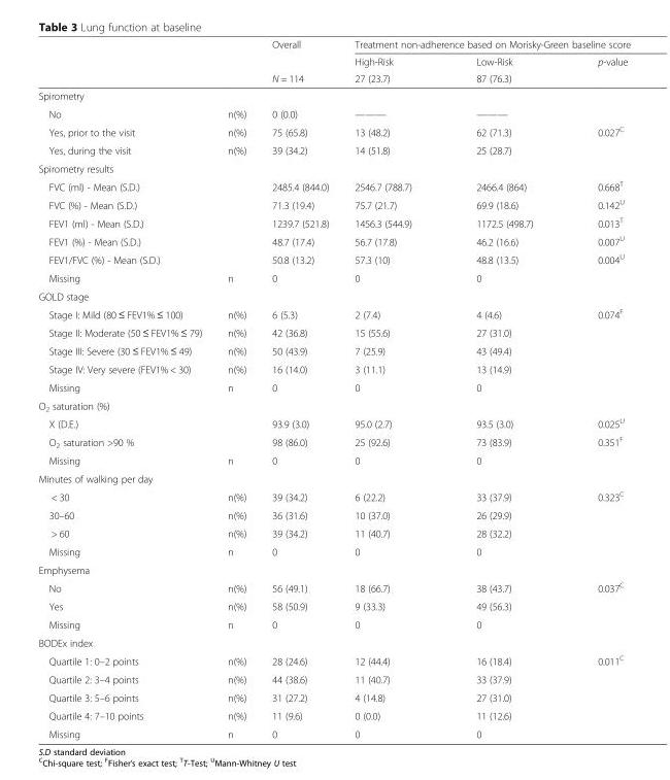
<table><thead><tr><td rowspan="3"></td><td rowspan="3"></td><td rowspan="3">Overall N = 114</td><td colspan="3">Treatment non-adherence based on Morisky-Green baseline score</td></tr><tr><td rowspan="2">High-Risk 27 (23.7)</td><td rowspan="2">Low-Risk 87 (76.3)</td><td rowspan="2">p-value</td></tr><tr></tr></thead><tbody><tr><td colspan="6">Spirometry</td></tr><tr><td>No</td><td>n(%)</td><td>0 (0.0)</td><td>———</td><td>———</td><td></td></tr><tr><td>Yes, prior to the visit</td><td>n(%)</td><td>75 (65.8)</td><td>13 (48.2)</td><td>62 (71.3)</td><td>0.027<sup>C</sup></td></tr><tr><td>Yes, during the visit</td><td>n(%)</td><td>39 (34.2)</td><td>14 (51.8)</td><td>25 (28.7)</td><td></td></tr><tr><td colspan="6">Spirometry results</td></tr><tr><td>FVC (ml) - Mean (S.D.)</td><td></td><td>2485.4 (844.0)</td><td>2546.7 (788.7)</td><td>2466.4 (864)</td><td>0.668<sup>T</sup></td></tr><tr><td>FVC (%) - Mean (S.D.)</td><td></td><td>71.3 (19.4)</td><td>75.7 (21.7)</td><td>69.9 (18.6)</td><td>0.142<sup>U</sup></td></tr><tr><td>FEV1 (ml) - Mean (S.D.)</td><td></td><td>1239.7 (521.8)</td><td>1456.3 (544.9)</td><td>1172.5 (498.7)</td><td>0.013<sup>T</sup></td></tr><tr><td>FEV1 (%) - Mean (S.D.)</td><td></td><td>48.7 (17.4)</td><td>56.7 (17.8)</td><td>46.2 (16.6)</td><td>0.007<sup>U</sup></td></tr><tr><td>FEV1/FVC (%) - Mean (S.D.)</td><td></td><td>50.8 (13.2)</td><td>57.3 (10)</td><td>48.8 (13.5)</td><td>0.004<sup>U</sup></td></tr><tr><td>Missing</td><td>n</td><td>0</td><td>0</td><td>0</td><td></td></tr><tr><td colspan="6">GOLD stage</td></tr><tr><td>Stage I: Mild (80 ≤ FEV1% ≤ 100)</td><td>n(%)</td><td>6 (5.3)</td><td>2 (7.4)</td><td>4 (4.6)</td><td>0.074<sup>F</sup></td></tr><tr><td>Stage II: Moderate (50 ≤ FEV1% ≤ 79)</td><td>n(%)</td><td>42 (36.8)</td><td>15 (55.6)</td><td>27 (31.0)</td><td></td></tr><tr><td>Stage III: Severe (30 ≤ FEV1% ≤ 49)</td><td>n(%)</td><td>50 (43.9)</td><td>7 (25.9)</td><td>43 (49.4)</td><td></td></tr><tr><td>Stage IV: Very severe (FEV1% &lt; 30)</td><td>n(%)</td><td>16 (14.0)</td><td>3 (11.1)</td><td>13 (14.9)</td><td></td></tr><tr><td>Missing</td><td>n</td><td>0</td><td>0</td><td>0</td><td></td></tr><tr><td colspan="6">O<sub>2</sub> saturation (%)</td></tr><tr><td>X (D.E.)</td><td></td><td>93.9 (3.0)</td><td>95.0 (2.7)</td><td>93.5 (3.0)</td><td>0.025<sup>U</sup></td></tr><tr><td>O<sub>2</sub> saturation &gt;90 %</td><td></td><td>98 (86.0)</td><td>25 (92.6)</td><td>73 (83.9)</td><td>0.351<sup>F</sup></td></tr><tr><td>Missing</td><td>n</td><td>0</td><td>0</td><td>0</td><td></td></tr><tr><td colspan="6">Minutes of walking per day</td></tr><tr><td>&lt; 30</td><td>n(%)</td><td>39 (34.2)</td><td>6 (22.2)</td><td>33 (37.9)</td><td>0.323<sup>C</sup></td></tr><tr><td>30–60</td><td>n(%)</td><td>36 (31.6)</td><td>10 (37.0)</td><td>26 (29.9)</td><td></td></tr><tr><td>&gt; 60</td><td>n(%)</td><td>39 (34.2)</td><td>11 (40.7)</td><td>28 (32.2)</td><td></td></tr><tr><td>Missing</td><td>n</td><td>0</td><td>0</td><td>0</td><td></td></tr><tr><td colspan="6">Emphysema</td></tr><tr><td>No</td><td>n(%)</td><td>56 (49.1)</td><td>18 (66.7)</td><td>38 (43.7)</td><td>0.037<sup>C</sup></td></tr><tr><td>Yes</td><td>n(%)</td><td>58 (50.9)</td><td>9 (33.3)</td><td>49 (56.3)</td><td></td></tr><tr><td>Missing</td><td>n</td><td>0</td><td>0</td><td>0</td><td></td></tr><tr><td colspan="6">BODEx index</td></tr><tr><td>Quartile 1: 0–2 points</td><td>n(%)</td><td>28 (24.6)</td><td>12 (44.4)</td><td>16 (18.4)</td><td>0.011<sup>C</sup></td></tr><tr><td>Quartile 2: 3–4 points</td><td>n(%)</td><td>44 (38.6)</td><td>11 (40.7)</td><td>33 (37.9)</td><td></td></tr><tr><td>Quartile 3: 5–6 points</td><td>n(%)</td><td>31 (27.2)</td><td>4 (14.8)</td><td>27 (31.0)</td><td></td></tr><tr><td>Quartile 4: 7–10 points</td><td>n(%)</td><td>11 (9.6)</td><td>0 (0.0)</td><td>11 (12.6)</td><td></td></tr><tr><td>Missing</td><td>n</td><td>0</td><td>0</td><td>0</td><td></td></tr></tbody></table>